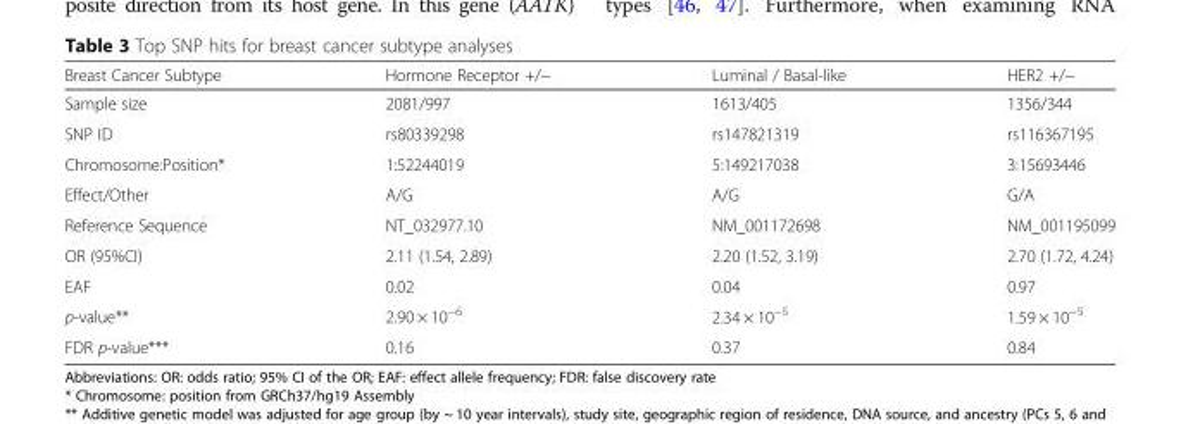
<table><thead><tr><td>Breast Cancer Subtype</td><td>Hormone Receptor +/−</td><td>Luminal / Basal-like</td><td>HER2 +/−</td></tr></thead><tbody><tr><td>Sample size</td><td>2081/997</td><td>1613/405</td><td>1356/344</td></tr><tr><td>SNP ID</td><td>rs80339298</td><td>rs147821319</td><td>rs116367195</td></tr><tr><td>Chromosome:Position*</td><td>1:52244019</td><td>5:149217038</td><td>3:15693446</td></tr><tr><td>Effect/Other</td><td>A/G</td><td>A/G</td><td>G/A</td></tr><tr><td>Reference Sequence</td><td>NT_032977.10</td><td>NM_001172698</td><td>NM_001195099</td></tr><tr><td>OR (95%CI)</td><td>2.11 (1.54, 2.89)</td><td>2.20 (1.52, 3.19)</td><td>2.70 (1.72, 4.24)</td></tr><tr><td>EAF</td><td>0.02</td><td>0.04</td><td>0.97</td></tr><tr><td>p-value**</td><td>2.90 × 10<sup>−6</sup></td><td>2.34 × 10<sup>−5</sup></td><td>1.59 × 10<sup>−5</sup></td></tr><tr><td>FDR p-value***</td><td>0.16</td><td>0.37</td><td>0.84</td></tr></tbody></table>